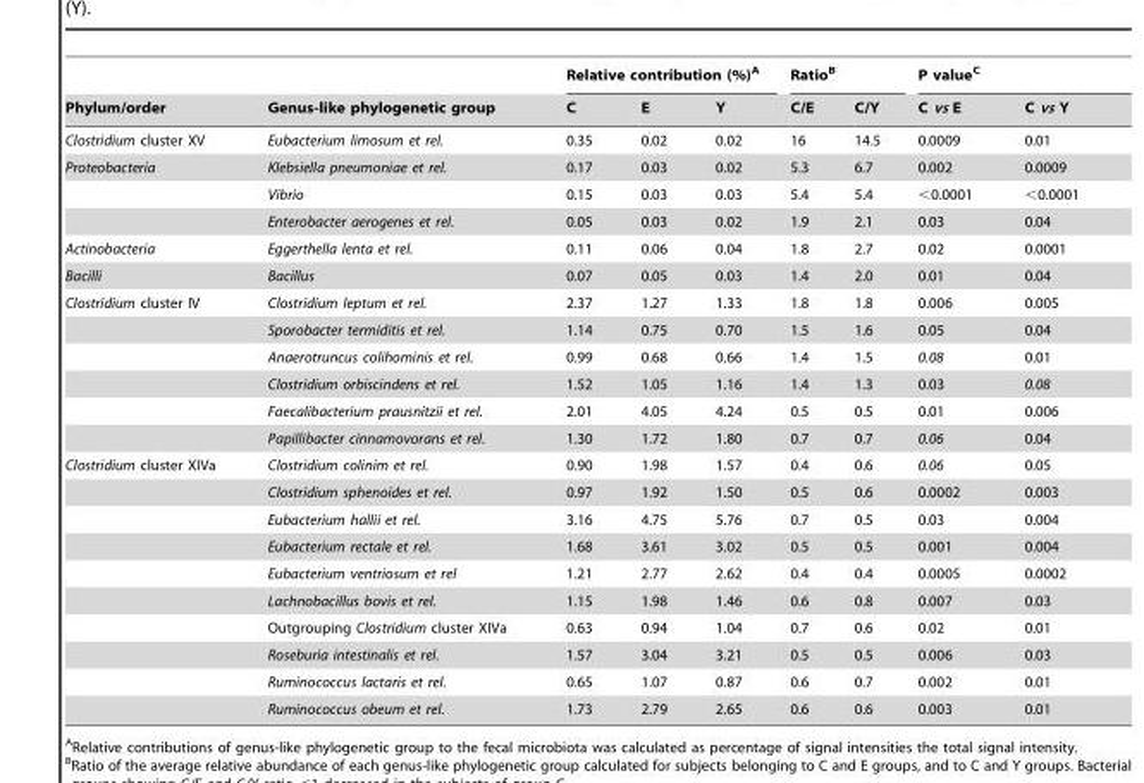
<table><thead><tr><td rowspan="2">Phylum/order</td><td rowspan="2">Genus-like phylogenetic group</td><td colspan="3">Relative contribution (%)<sup>A</sup></td><td colspan="2">Ratio<sup>B</sup></td><td colspan="2">P value<sup>C</sup></td></tr><tr><td>C</td><td>E</td><td>Y</td><td>C/E</td><td>C/Y</td><td>C vs E</td><td>C vs Y</td></tr></thead><tbody><tr><td>Clostridium cluster XV</td><td>Eubacterium limosum et rel.</td><td>0.35</td><td>0.02</td><td>0.02</td><td>16</td><td>14.5</td><td>0.0009</td><td>0.01</td></tr><tr><td rowspan="3">Proteobacteria</td><td>Klebsiella pneumoniae et rel.</td><td>0.17</td><td>0.03</td><td>0.02</td><td>5.3</td><td>6.7</td><td>0.002</td><td>0.0009</td></tr><tr><td>Vibrio</td><td>0.15</td><td>0.03</td><td>0.03</td><td>5.4</td><td>5.4</td><td>&lt;0.0001</td><td>&lt;0.0001</td></tr><tr><td>Enterobacter aerogenes et rel.</td><td>0.05</td><td>0.03</td><td>0.02</td><td>1.9</td><td>2.1</td><td>0.03</td><td>0.04</td></tr><tr><td>Actinobacteria</td><td>Eggerthella lenta et rel.</td><td>0.11</td><td>0.06</td><td>0.04</td><td>1.8</td><td>2.7</td><td>0.02</td><td>0.0001</td></tr><tr><td>Bacilli</td><td>Bacillus</td><td>0.07</td><td>0.05</td><td>0.03</td><td>1.4</td><td>2.0</td><td>0.01</td><td>0.04</td></tr><tr><td rowspan="6">Clostridium cluster IV</td><td>Clostridium leptum et rel.</td><td>2.37</td><td>1.27</td><td>1.33</td><td>1.8</td><td>1.8</td><td>0.006</td><td>0.005</td></tr><tr><td>Sporobacter termiditis et rel.</td><td>1.14</td><td>0.75</td><td>0.70</td><td>1.5</td><td>1.6</td><td>0.05</td><td>0.04</td></tr><tr><td>Anaerotruncus colihominis et rel.</td><td>0.99</td><td>0.68</td><td>0.66</td><td>1.4</td><td>1.5</td><td>0.08</td><td>0.01</td></tr><tr><td>Clostridium orbiscindens et rel.</td><td>1.52</td><td>1.05</td><td>1.16</td><td>1.4</td><td>1.3</td><td>0.03</td><td>0.08</td></tr><tr><td>Faecalibacterium prausnitzii et rel.</td><td>2.01</td><td>4.05</td><td>4.24</td><td>0.5</td><td>0.5</td><td>0.01</td><td>0.006</td></tr><tr><td>Papillibacter cinnamovorans et rel.</td><td>1.30</td><td>1.72</td><td>1.80</td><td>0.7</td><td>0.7</td><td>0.06</td><td>0.04</td></tr><tr><td rowspan="10">Clostridium cluster XIVa</td><td>Clostridium colinim et rel.</td><td>0.90</td><td>1.98</td><td>1.57</td><td>0.4</td><td>0.6</td><td>0.06</td><td>0.05</td></tr><tr><td>Clostridium sphenoides et rel.</td><td>0.97</td><td>1.92</td><td>1.50</td><td>0.5</td><td>0.6</td><td>0.0002</td><td>0.003</td></tr><tr><td>Eubacterium hallii et rel.</td><td>3.16</td><td>4.75</td><td>5.76</td><td>0.7</td><td>0.5</td><td>0.03</td><td>0.004</td></tr><tr><td>Eubacterium rectale et rel.</td><td>1.68</td><td>3.61</td><td>3.02</td><td>0.5</td><td>0.5</td><td>0.001</td><td>0.004</td></tr><tr><td>Eubacterium ventriosum et rel</td><td>1.21</td><td>2.77</td><td>2.62</td><td>0.4</td><td>0.4</td><td>0.0005</td><td>0.0002</td></tr><tr><td>Lachnobacillus bovis et rel.</td><td>1.15</td><td>1.98</td><td>1.46</td><td>0.6</td><td>0.8</td><td>0.007</td><td>0.03</td></tr><tr><td>Outgrouping Clostridium cluster XIVa</td><td>0.63</td><td>0.94</td><td>1.04</td><td>0.7</td><td>0.6</td><td>0.02</td><td>0.01</td></tr><tr><td>Roseburia intestinalis et rel.</td><td>1.57</td><td>3.04</td><td>3.21</td><td>0.5</td><td>0.5</td><td>0.006</td><td>0.03</td></tr><tr><td>Ruminococcus lactaris et rel.</td><td>0.65</td><td>1.07</td><td>0.87</td><td>0.6</td><td>0.7</td><td>0.002</td><td>0.01</td></tr><tr><td>Ruminococcus obeum et rel.</td><td>1.73</td><td>2.79</td><td>2.65</td><td>0.6</td><td>0.6</td><td>0.003</td><td>0.01</td></tr></tbody></table>